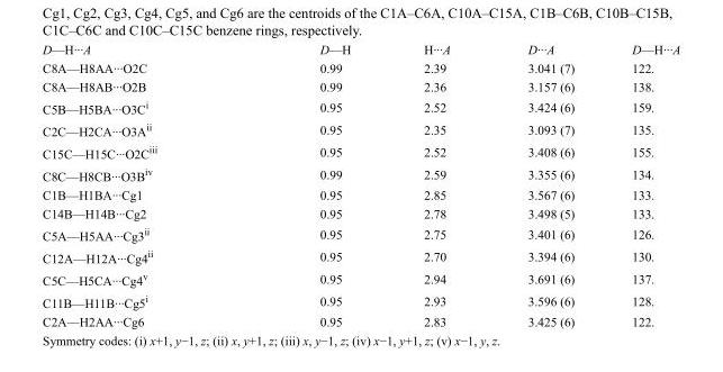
<table><tbody><tr><td>D—H···A</td><td>D—H</td><td>H···A</td><td>D···A</td><td>D—H···A</td></tr><tr><td>C8A—H8AA···O2C</td><td>0.99</td><td>2.39</td><td>3.041 (7)</td><td>122.</td></tr><tr><td>C8A—H8AB···O2B</td><td>0.99</td><td>2.36</td><td>3.157 (6)</td><td>138.</td></tr><tr><td>C5B—H5BA···O3C<sup>i</sup></td><td>0.95</td><td>2.52</td><td>3.424 (6)</td><td>159.</td></tr><tr><td>C2C—H2CA···O3A<sup>ii</sup></td><td>0.95</td><td>2.35</td><td>3.093 (7)</td><td>135.</td></tr><tr><td>C15C—H15C···O2C<sup>iii</sup></td><td>0.95</td><td>2.52</td><td>3.408 (6)</td><td>155.</td></tr><tr><td>C8C—H8CB···O3B<sup>iv</sup></td><td>0.99</td><td>2.59</td><td>3.355 (6)</td><td>134.</td></tr><tr><td>C1B—H1BA···Cg1</td><td>0.95</td><td>2.85</td><td>3.567 (6)</td><td>133.</td></tr><tr><td>C14B—H14B···Cg2</td><td>0.95</td><td>2.78</td><td>3.498 (5)</td><td>133.</td></tr><tr><td>C5A—H5AA···Cg3<sup>ii</sup></td><td>0.95</td><td>2.75</td><td>3.401 (6)</td><td>126.</td></tr><tr><td>C12A—H12A···Cg4<sup>ii</sup></td><td>0.95</td><td>2.70</td><td>3.394 (6)</td><td>130.</td></tr><tr><td>C5C—H5CA···Cg4<sup>v</sup></td><td>0.95</td><td>2.94</td><td>3.691 (6)</td><td>137.</td></tr><tr><td>C11B—H11B···Cg5<sup>i</sup></td><td>0.95</td><td>2.93</td><td>3.596 (6)</td><td>128.</td></tr><tr><td>C2A—H2AA···Cg6</td><td>0.95</td><td>2.83</td><td>3.425 (6)</td><td>122.</td></tr></tbody></table>